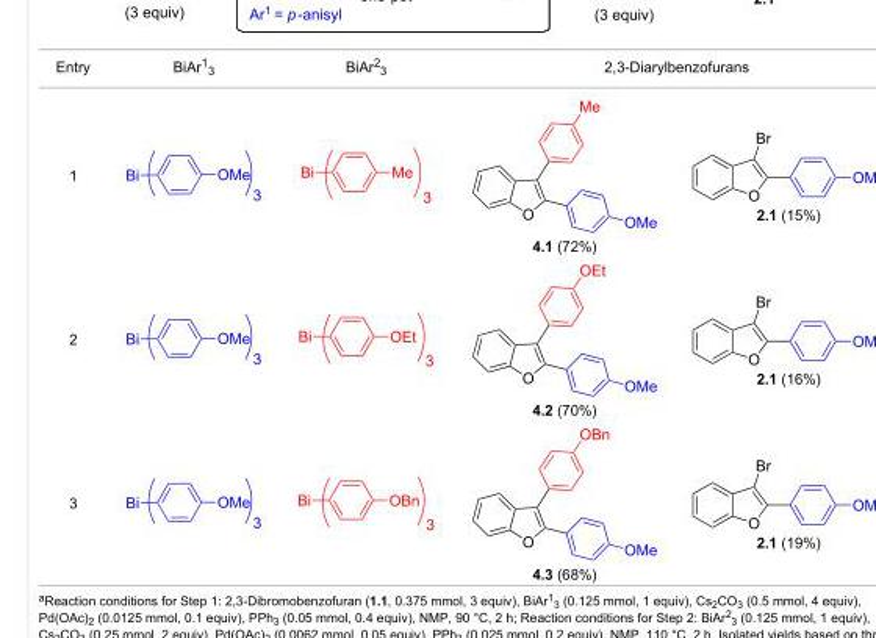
<table><tbody><tr><td>Entry</td><td>BiAr13</td><td>BiAr23</td><td colspan="2">2,3-Diarylbenzofurans</td></tr><tr><td>1</td><td></td><td></td><td>4.1 (72%)</td><td>2.1 (15%)</td></tr><tr><td>2</td><td></td><td></td><td>4.2 (70%)</td><td>2.1 (16%)</td></tr><tr><td>3</td><td></td><td></td><td>4.3 (68%)</td><td>2.1 (19%)</td></tr></tbody></table>